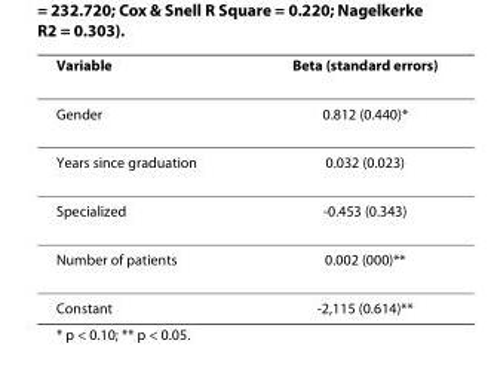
<table><thead><tr><td>Variable</td><td>Beta (standard errors)</td></tr></thead><tbody><tr><td>Gender</td><td>0.812 (0.440)*</td></tr><tr><td>Years since graduation</td><td>0.032 (0.023)</td></tr><tr><td>Specialized</td><td>-0.453 (0.343)</td></tr><tr><td>Number of patients</td><td>0.002 (000)**</td></tr><tr><td>Constant</td><td>-2,115 (0.614)**</td></tr></tbody></table>